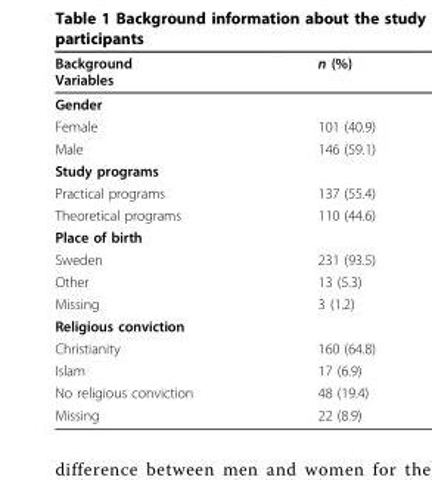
<table><thead><tr><td>Background Variables</td><td>n (%)</td></tr></thead><tbody><tr><td colspan="2">Gender</td></tr><tr><td>Female</td><td>101 (40.9)</td></tr><tr><td>Male</td><td>146 (59.1)</td></tr><tr><td colspan="2">Study programs</td></tr><tr><td>Practical programs</td><td>137 (55.4)</td></tr><tr><td>Theoretical programs</td><td>110 (44.6)</td></tr><tr><td colspan="2">Place of birth</td></tr><tr><td>Sweden</td><td>231 (93.5)</td></tr><tr><td>Other</td><td>13 (5.3)</td></tr><tr><td>Missing</td><td>3 (1.2)</td></tr><tr><td colspan="2">Religious conviction</td></tr><tr><td>Christianity</td><td>160 (64.8)</td></tr><tr><td>Islam</td><td>17 (6.9)</td></tr><tr><td>No religious conviction</td><td>48 (19.4)</td></tr><tr><td>Missing</td><td>22 (8.9)</td></tr></tbody></table>